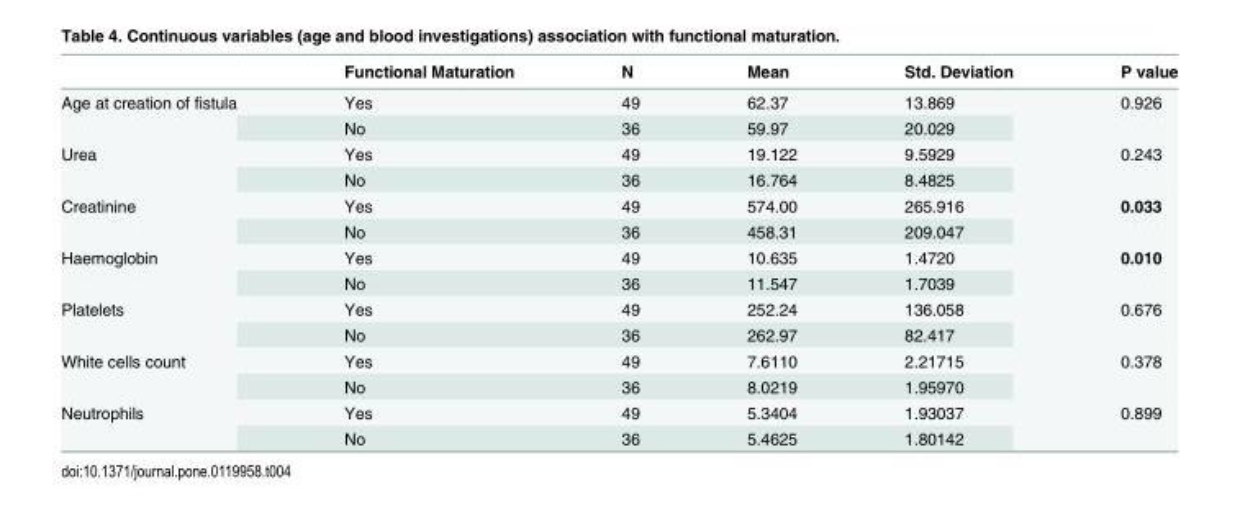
<table><thead><tr><td></td><td>Functional Maturation</td><td>N</td><td>Mean</td><td>Std. Deviation</td><td>P value</td></tr></thead><tbody><tr><td rowspan="2">Age at creation of fistula</td><td>Yes</td><td>49</td><td>62.37</td><td>13.869</td><td rowspan="2">0.926</td></tr><tr><td>No</td><td>36</td><td>59.97</td><td>20.029</td></tr><tr><td rowspan="2">Urea</td><td>Yes</td><td>49</td><td>19.122</td><td>9.5929</td><td rowspan="2">0.243</td></tr><tr><td>No</td><td>36</td><td>16.764</td><td>8.4825</td></tr><tr><td rowspan="2">Creatinine</td><td>Yes</td><td>49</td><td>574.00</td><td>265.916</td><td rowspan="2">0.033</td></tr><tr><td>No</td><td>36</td><td>458.31</td><td>209.047</td></tr><tr><td rowspan="2">Haemoglobin</td><td>Yes</td><td>49</td><td>10.635</td><td>1.4720</td><td rowspan="2">0.010</td></tr><tr><td>No</td><td>36</td><td>11.547</td><td>1.7039</td></tr><tr><td rowspan="2">Platelets</td><td>Yes</td><td>49</td><td>252.24</td><td>136.058</td><td rowspan="2">0.676</td></tr><tr><td>No</td><td>36</td><td>262.97</td><td>82.417</td></tr><tr><td rowspan="2">White cells count</td><td>Yes</td><td>49</td><td>7.6110</td><td>2.21715</td><td rowspan="2">0.378</td></tr><tr><td>No</td><td>36</td><td>8.0219</td><td>1.95970</td></tr><tr><td rowspan="2">Neutrophils</td><td>Yes</td><td>49</td><td>5.3404</td><td>1.93037</td><td rowspan="2">0.899</td></tr><tr><td>No</td><td>36</td><td>5.4625</td><td>1.80142</td></tr></tbody></table>